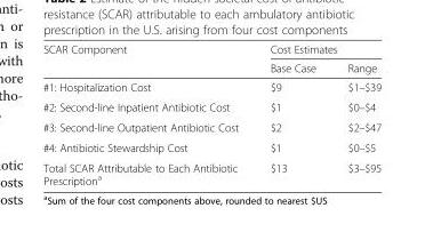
<table><thead><tr><td rowspan="2">SCAR Component</td><td colspan="2">Cost Estimates</td></tr><tr><td>Base Case</td><td>Range</td></tr></thead><tbody><tr><td>#1: Hospitalization Cost</td><td>$9</td><td>$1–$39</td></tr><tr><td>#2: Second-line Inpatient Antibiotic Cost</td><td>$1</td><td>$0–$4</td></tr><tr><td>#3: Second-line Outpatient Antibiotic Cost</td><td>$2</td><td>$2–$47</td></tr><tr><td>#4: Antibiotic Stewardship Cost</td><td>$1</td><td>$0–$5</td></tr><tr><td>Total SCAR Attributable to Each Antibiotic Prescription<sup>a</sup></td><td>$13</td><td>$3–$95</td></tr></tbody></table>